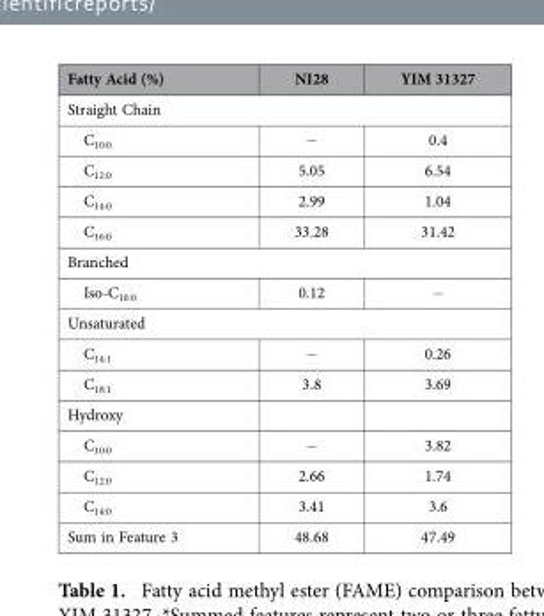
<table><thead><tr><td>Fatty Acid (%)</td><td>NI28</td><td>YIM 31327</td></tr></thead><tbody><tr><td colspan="3">Straight Chain</td></tr><tr><td>C<sub>10:0</sub></td><td>−</td><td>0.4</td></tr><tr><td>C<sub>12:0</sub></td><td>5.05</td><td>6.54</td></tr><tr><td>C<sub>14:0</sub></td><td>2.99</td><td>1.04</td></tr><tr><td>C<sub>16:0</sub></td><td>33.28</td><td>31.42</td></tr><tr><td colspan="3">Branched</td></tr><tr><td>Iso-C<sub>10:0</sub></td><td>0.12</td><td>−</td></tr><tr><td colspan="3">Unsaturated</td></tr><tr><td>C<sub>14:1</sub></td><td>−</td><td>0.26</td></tr><tr><td>C<sub>18:1</sub></td><td>3.8</td><td>3.69</td></tr><tr><td colspan="3">Hydroxy</td></tr><tr><td>C<sub>10:0</sub></td><td>−</td><td>3.82</td></tr><tr><td>C<sub>12:0</sub></td><td>2.66</td><td>1.74</td></tr><tr><td>C<sub>14:0</sub></td><td>3.41</td><td>3.6</td></tr><tr><td>Sum in Feature 3</td><td>48.68</td><td>47.49</td></tr></tbody></table>